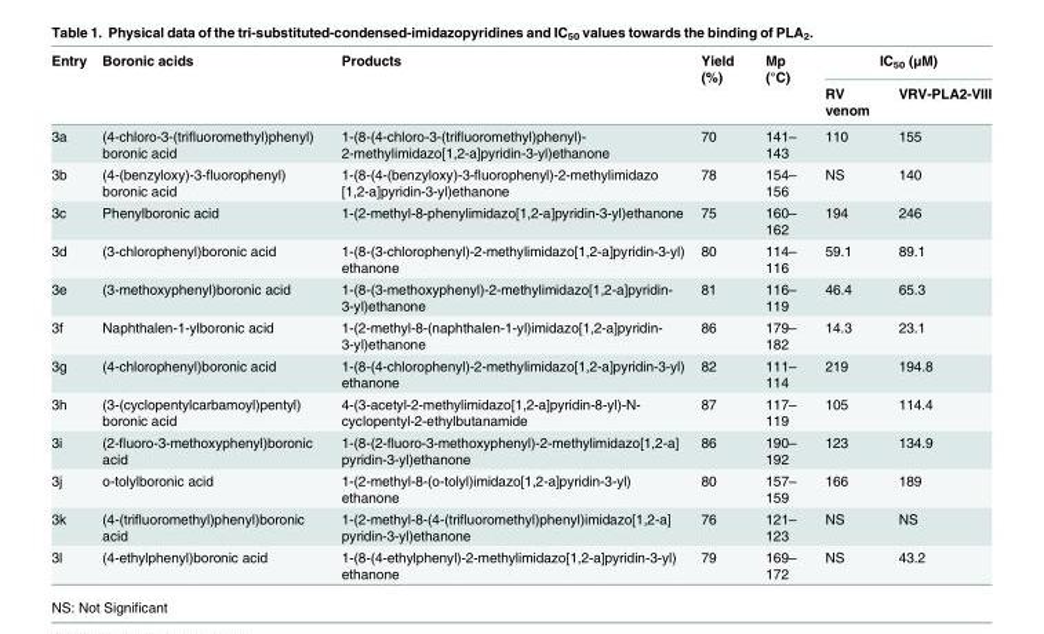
<table><thead><tr><td rowspan="2">Entry</td><td rowspan="2">Boronic acids</td><td rowspan="2">Products</td><td rowspan="2">Yield (%)</td><td rowspan="2">Mp (°C)</td><td colspan="2">IC<sub>50</sub> (μM)</td></tr><tr><td>RV venom</td><td>VRV-PLA2-VIII</td></tr></thead><tbody><tr><td>3a</td><td>(4-chloro-3-(trifluoromethyl)phenyl) boronic acid</td><td>1-(8-(4-chloro-3-(trifluoromethyl)phenyl)- 2-methylimidazo[1,2-a]pyridin-3-yl)ethanone</td><td>70</td><td>141– 143</td><td>110</td><td>155</td></tr><tr><td>3b</td><td>(4-(benzyloxy)-3-fluorophenyl) boronic acid</td><td>1-(8-(4-(benzyloxy)-3-fluorophenyl)-2-methylimidazo [1,2-a]pyridin-3-yl)ethanone</td><td>78</td><td>154– 156</td><td>NS</td><td>140</td></tr><tr><td>3c</td><td>Phenylboronic acid</td><td>1-(2-methyl-8-phenylimidazo[1,2-a]pyridin-3-yl)ethanone</td><td>75</td><td>160– 162</td><td>194</td><td>246</td></tr><tr><td>3d</td><td>(3-chlorophenyl)boronic acid</td><td>1-(8-(3-chlorophenyl)-2-methylimidazo[1,2-a]pyridin-3-yl) ethanone</td><td>80</td><td>114– 116</td><td>59.1</td><td>89.1</td></tr><tr><td>3e</td><td>(3-methoxyphenyl)boronic acid</td><td>1-(8-(3-methoxyphenyl)-2-methylimidazo[1,2-a]pyridin- 3-yl)ethanone</td><td>81</td><td>116– 119</td><td>46.4</td><td>65.3</td></tr><tr><td>3f</td><td>Naphthalen-1-ylboronic acid</td><td>1-(2-methyl-8-(naphthalen-1-yl)imidazo[1,2-a]pyridin- 3-yl)ethanone</td><td>86</td><td>179– 182</td><td>14.3</td><td>23.1</td></tr><tr><td>3g</td><td>(4-chlorophenyl)boronic acid</td><td>1-(8-(4-chlorophenyl)-2-methylimidazo[1,2-a]pyridin-3-yl) ethanone</td><td>82</td><td>111– 114</td><td>219</td><td>194.8</td></tr><tr><td>3h</td><td>(3-(cyclopentylcarbamoyl)pentyl) boronic acid</td><td>4-(3-acetyl-2-methylimidazo[1,2-a]pyridin-8-yl)-N- cyclopentyl-2-ethylbutanamide</td><td>87</td><td>117– 119</td><td>105</td><td>114.4</td></tr><tr><td>3i</td><td>(2-fluoro-3-methoxyphenyl)boronic acid</td><td>1-(8-(2-fluoro-3-methoxyphenyl)-2-methylimidazo[1,2-a] pyridin-3-yl)ethanone</td><td>86</td><td>190– 192</td><td>123</td><td>134.9</td></tr><tr><td>3j</td><td>o-tolylboronic acid</td><td>1-(2-methyl-8-(o-tolyl)imidazo[1,2-a]pyridin-3-yl) ethanone</td><td>80</td><td>157– 159</td><td>166</td><td>189</td></tr><tr><td>3k</td><td>(4-(trifluoromethyl)phenyl)boronic acid</td><td>1-(2-methyl-8-(4-(trifluoromethyl)phenyl)imidazo[1,2-a] pyridin-3-yl)ethanone</td><td>76</td><td>121– 123</td><td>NS</td><td>NS</td></tr><tr><td>3l</td><td>(4-ethylphenyl)boronic acid</td><td>1-(8-(4-ethylphenyl)-2-methylimidazo[1,2-a]pyridin-3-yl) ethanone</td><td>79</td><td>169– 172</td><td>NS</td><td>43.2</td></tr></tbody></table>